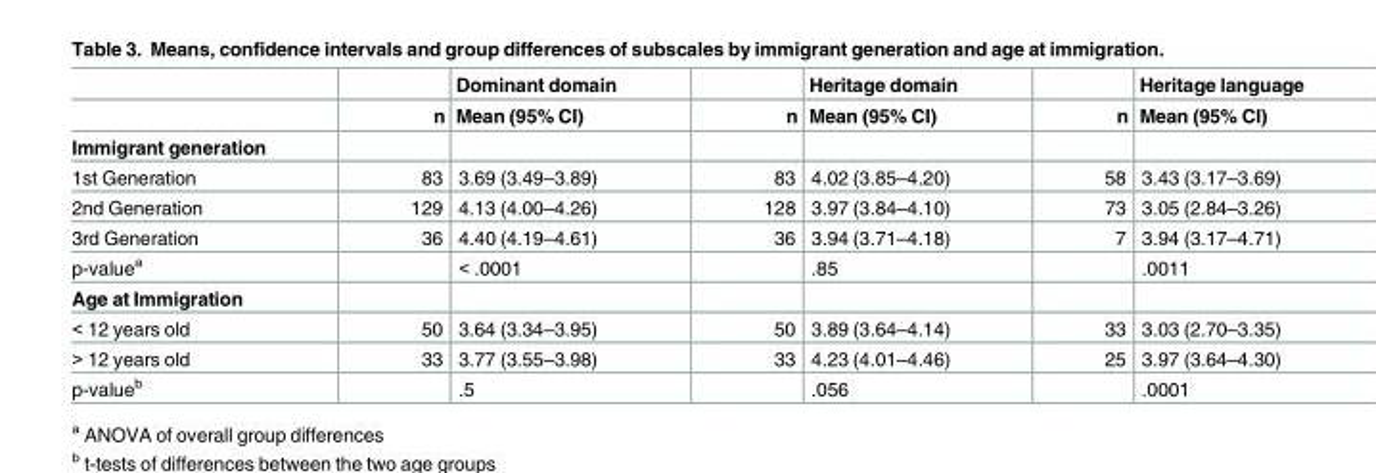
<table><thead><tr><td rowspan="2"></td><td rowspan="2">n</td><td rowspan="2">Dominant domain Mean (95% CI)</td><td rowspan="2">n</td><td rowspan="2">Heritage domain Mean (95% CI)</td><td rowspan="2">n</td><td rowspan="2">Heritage language Mean (95% CI)</td></tr><tr></tr></thead><tbody><tr><td colspan="7">Immigrant generation</td></tr><tr><td>1st Generation</td><td>83</td><td>3.69 (3.49–3.89)</td><td>83</td><td>4.02 (3.85–4.20)</td><td>58</td><td>3.43 (3.17–3.69)</td></tr><tr><td>2nd Generation</td><td>129</td><td>4.13 (4.00–4.26)</td><td>128</td><td>3.97 (3.84–4.10)</td><td>73</td><td>3.05 (2.84–3.26)</td></tr><tr><td>3rd Generation</td><td>36</td><td>4.40 (4.19–4.61)</td><td>36</td><td>3.94 (3.71–4.18)</td><td>7</td><td>3.94 (3.17–4.71)</td></tr><tr><td>p-value<sup>a</sup></td><td></td><td>&lt; .0001</td><td></td><td>.85</td><td></td><td>.0011</td></tr><tr><td colspan="7">Age at Immigration</td></tr><tr><td>&lt; 12 years old</td><td>50</td><td>3.64 (3.34–3.95)</td><td>50</td><td>3.89 (3.64–4.14)</td><td>33</td><td>3.03 (2.70–3.35)</td></tr><tr><td>&gt; 12 years old</td><td>33</td><td>3.77 (3.55–3.98)</td><td>33</td><td>4.23 (4.01–4.46)</td><td>25</td><td>3.97 (3.64–4.30)</td></tr><tr><td>p-value<sup>b</sup></td><td></td><td>.5</td><td></td><td>.056</td><td></td><td>.0001</td></tr></tbody></table>